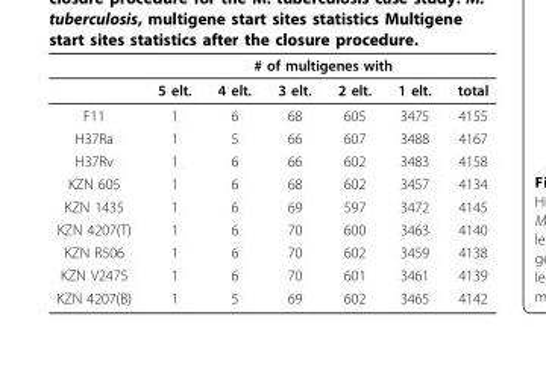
<table><thead><tr><td rowspan="2"></td><td colspan="6"># of multigenes with</td></tr><tr><td>5 elt.</td><td>4 elt.</td><td>3 elt.</td><td>2 elt.</td><td>1 elt.</td><td>total</td></tr></thead><tbody><tr><td>F11</td><td>1</td><td>6</td><td>68</td><td>605</td><td>3475</td><td>4155</td></tr><tr><td>H37Ra</td><td>1</td><td>5</td><td>66</td><td>607</td><td>3488</td><td>4167</td></tr><tr><td>H37Rv</td><td>1</td><td>6</td><td>66</td><td>602</td><td>3483</td><td>4158</td></tr><tr><td>KZN 605</td><td>1</td><td>6</td><td>68</td><td>602</td><td>3457</td><td>4134</td></tr><tr><td>KZN 1435</td><td>1</td><td>6</td><td>69</td><td>597</td><td>3472</td><td>4145</td></tr><tr><td>KZN 4207(T)</td><td>1</td><td>6</td><td>70</td><td>600</td><td>3463</td><td>4140</td></tr><tr><td>KZN R506</td><td>1</td><td>6</td><td>70</td><td>602</td><td>3459</td><td>4138</td></tr><tr><td>KZN V2475</td><td>1</td><td>6</td><td>70</td><td>601</td><td>3461</td><td>4139</td></tr><tr><td>KZN 4207(B)</td><td>1</td><td>5</td><td>69</td><td>602</td><td>3465</td><td>4142</td></tr></tbody></table>